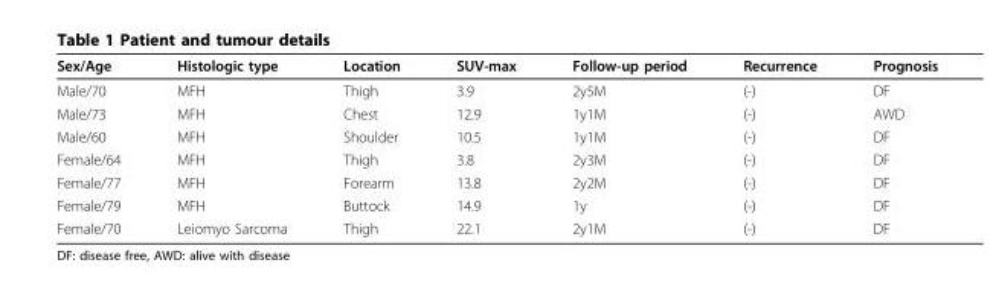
<table><thead><tr><td>Sex/Age</td><td>Histologic type</td><td>Location</td><td>SUV-max</td><td>Follow-up period</td><td>Recurrence</td><td>Prognosis</td></tr></thead><tbody><tr><td>Male/70</td><td>MFH</td><td>Thigh</td><td>3.9</td><td>2y5M</td><td>(-)</td><td>DF</td></tr><tr><td>Male/73</td><td>MFH</td><td>Chest</td><td>12.9</td><td>1y1M</td><td>(-)</td><td>AWD</td></tr><tr><td>Male/60</td><td>MFH</td><td>Shoulder</td><td>10.5</td><td>1y1M</td><td>(-)</td><td>DF</td></tr><tr><td>Female/64</td><td>MFH</td><td>Thigh</td><td>3.8</td><td>2y3M</td><td>(-)</td><td>DF</td></tr><tr><td>Female/77</td><td>MFH</td><td>Forearm</td><td>13.8</td><td>2y2M</td><td>(-)</td><td>DF</td></tr><tr><td>Female/79</td><td>MFH</td><td>Buttock</td><td>14.9</td><td>1y</td><td>(-)</td><td>DF</td></tr><tr><td>Female/70</td><td>Leiomyo Sarcoma</td><td>Thigh</td><td>22.1</td><td>2y1M</td><td>(-)</td><td>DF</td></tr></tbody></table>